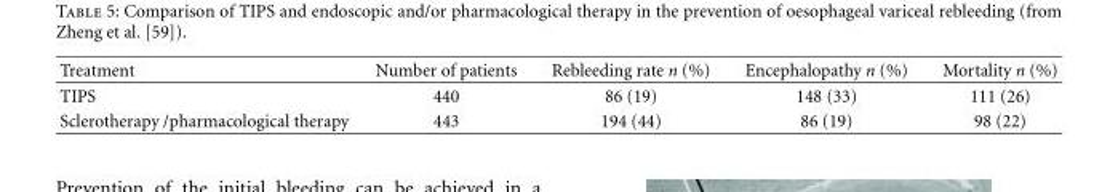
<table><thead><tr><td>Treatment</td><td>Number of patients</td><td>Rebleeding rate n (%)</td><td>Encephalopathy n (%)</td><td>Mortality n (%)</td></tr></thead><tbody><tr><td>TIPS</td><td>440</td><td>86 (19)</td><td>148 (33)</td><td>111 (26)</td></tr><tr><td>Sclerotherapy /pharmacological therapy</td><td>443</td><td>194 (44)</td><td>86 (19)</td><td>98 (22)</td></tr></tbody></table>